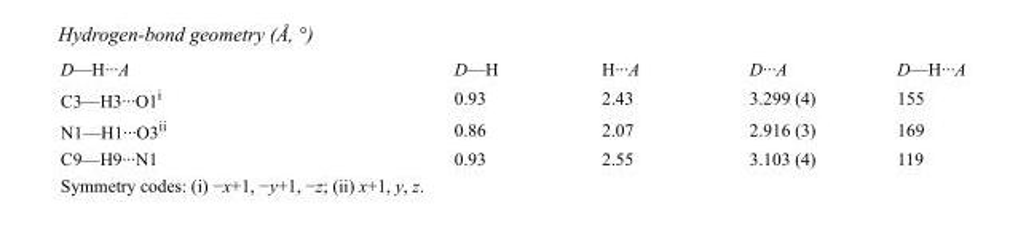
<table><tbody><tr><td>D—H···A</td><td>D—H</td><td>H···A</td><td>D···A</td><td>D—H···A</td></tr><tr><td>C3—H3···O1<sup>i</sup></td><td>0.93</td><td>2.43</td><td>3.299 (4)</td><td>155</td></tr><tr><td>N1—H1···O3<sup>ii</sup></td><td>0.86</td><td>2.07</td><td>2.916 (3)</td><td>169</td></tr><tr><td>C9—H9···N1</td><td>0.93</td><td>2.55</td><td>3.103 (4)</td><td>119</td></tr></tbody></table>